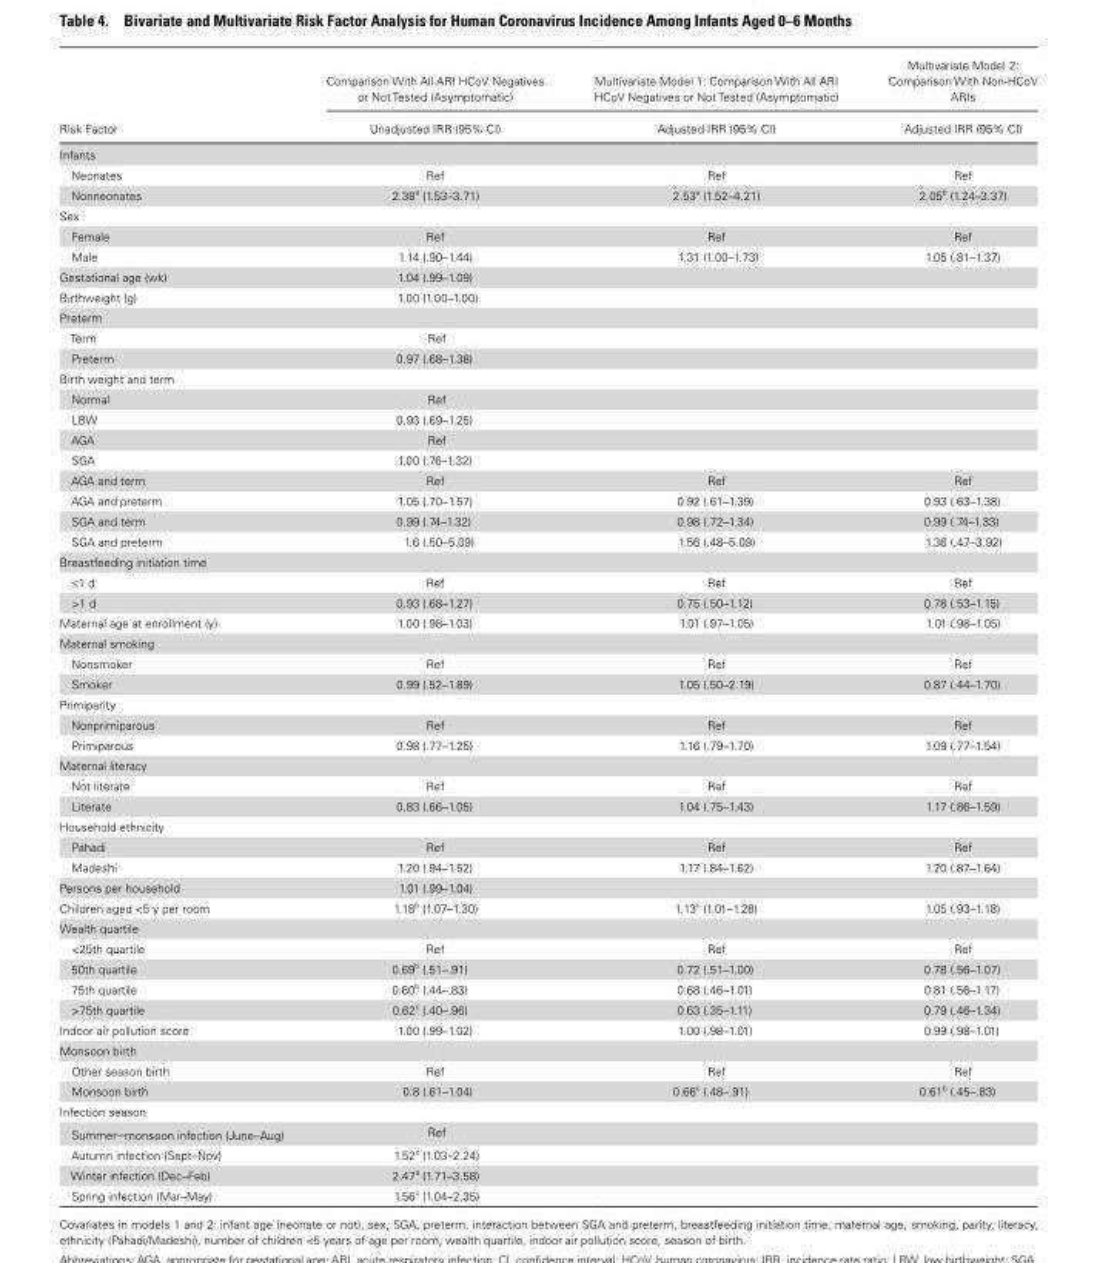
<table><thead><tr><td rowspan="2">Risk Factor</td><td rowspan="2">Comparison With All ARI HCoV Negatives or Not Tested (Asymptomatic) Unadjusted IRR (95% CI)</td><td rowspan="2">Multivariate Model 1: Comparison With All ARI HCoV Negatives or Not Tested (Asymptomatic) Adjusted IRR (95% CI)</td><td rowspan="2">Multivariate Model 2: Comparison With Non-HCoV ARIs Adjusted IRR (95% CI)</td></tr><tr></tr></thead><tbody><tr><td colspan="4">Infants</td></tr><tr><td>Neonates</td><td>Ref</td><td>Ref</td><td>Ref</td></tr><tr><td>Nonneonates</td><td>2.38<sup>a</sup> (1.53–3.71)</td><td>2.53<sup>a</sup> (1.52–4.21)</td><td>2.05<sup>b</sup> (1.24–3.37)</td></tr><tr><td colspan="4">Sex</td></tr><tr><td>Female</td><td>Ref</td><td>Ref</td><td>Ref</td></tr><tr><td>Male</td><td>1.14 (.90–1.44)</td><td>1.31 (1.00–1.73)</td><td>1.05 (.81–1.37)</td></tr><tr><td>Gestational age (wk)</td><td>1.04 (.99–1.09)</td><td></td><td></td></tr><tr><td>Birthweight (g)</td><td>1.00 (1.00–1.00)</td><td></td><td></td></tr><tr><td colspan="4">Preterm</td></tr><tr><td>Term</td><td>Ref</td><td></td><td></td></tr><tr><td>Preterm</td><td>0.97 (.68–1.38)</td><td></td><td></td></tr><tr><td colspan="4">Birth weight and term</td></tr><tr><td>Normal</td><td>Ref</td><td></td><td></td></tr><tr><td>LBW</td><td>0.93 (.69–1.25)</td><td></td><td></td></tr><tr><td>AGA</td><td>Ref</td><td></td><td></td></tr><tr><td>SGA</td><td>1.00 (.76–1.32)</td><td></td><td></td></tr><tr><td>AGA and term</td><td>Ref</td><td>Ref</td><td>Ref</td></tr><tr><td>AGA and preterm</td><td>1.05 (.70–1.57)</td><td>0.92 (.61–1.39)</td><td>0.93 (.63–1.38)</td></tr><tr><td>SGA and term</td><td>0.99 (.74–1.32)</td><td>0.98 (.72–1.34)</td><td>0.99 (.74–1.33)</td></tr><tr><td>SGA and preterm</td><td>1.6 (.50–5.09)</td><td>1.56 (.48–5.09)</td><td>1.36 (.47–3.92)</td></tr><tr><td colspan="4">Breastfeeding initiation time</td></tr><tr><td>≤1 d</td><td>Ref</td><td>Ref</td><td>Ref</td></tr><tr><td>&gt;1 d</td><td>0.93 (.68–1.27)</td><td>0.75 (.50–1.12)</td><td>0.78 (.53–1.15)</td></tr><tr><td>Maternal age at enrollment (y)</td><td>1.00 (.98–1.03)</td><td>1.01 (.97–1.05)</td><td>1.01 (.98–1.05)</td></tr><tr><td colspan="4">Maternal smoking</td></tr><tr><td>Nonsmoker</td><td>Ref</td><td>Ref</td><td>Ref</td></tr><tr><td>Smoker</td><td>0.99 (.52–1.89)</td><td>1.05 (.50–2.19)</td><td>0.87 (.44–1.70)</td></tr><tr><td colspan="4">Primiparity</td></tr><tr><td>Nonprimiparous</td><td>Ref</td><td>Ref</td><td>Ref</td></tr><tr><td>Primiparous</td><td>0.98 (.77–1.25)</td><td>1.16 (.79–1.70)</td><td>1.09 (.77–1.54)</td></tr><tr><td colspan="4">Maternal literacy</td></tr><tr><td>Not literate</td><td>Ref</td><td>Ref</td><td>Ref</td></tr><tr><td>Literate</td><td>0.83 (.66–1.05)</td><td>1.04 (.75–1.43)</td><td>1.17 (.86–1.59)</td></tr><tr><td colspan="4">Household ethnicity</td></tr><tr><td>Pahadi</td><td>Ref</td><td>Ref</td><td>Ref</td></tr><tr><td>Madeshi</td><td>1.20 (.94–1.52)</td><td>1.17 (.84–1.62)</td><td>1.20 (.87–1.64)</td></tr><tr><td>Persons per household</td><td>1.01 (.99–1.04)</td><td></td><td></td></tr><tr><td>Children aged &lt;5 y per room</td><td>1.18<sup>b</sup> (1.07–1.30)</td><td>1.13<sup>c</sup> (1.01–1.28)</td><td>1.05 (.93–1.18)</td></tr><tr><td colspan="4">Wealth quartile</td></tr><tr><td>&lt;25th quartile</td><td>Ref</td><td>Ref</td><td>Ref</td></tr><tr><td>50th quartile</td><td>0.69<sup>b</sup> (.51–.91)</td><td>0.72 (.51–1.00)</td><td>0.78 (.56–1.07)</td></tr><tr><td>75th quartile</td><td>0.60<sup>b</sup> (.44–.83)</td><td>0.68 (.46–1.01)</td><td>0.81 (.56–1.17)</td></tr><tr><td>&gt;75th quartile</td><td>0.62<sup>c</sup> (.40–.96)</td><td>0.63 (.35–1.11)</td><td>0.79 (.46–1.34)</td></tr><tr><td>Indoor air pollution score</td><td>1.00 (.99–1.02)</td><td>1.00 (.98–1.01)</td><td>0.99 (.98–1.01)</td></tr><tr><td colspan="4">Monsoon birth</td></tr><tr><td>Other season birth</td><td>Ref</td><td>Ref</td><td>Ref</td></tr><tr><td>Monsoon birth</td><td>0.8 (.61–1.04)</td><td>0.66<sup>c</sup> (.48–.91)</td><td>0.61<sup>b</sup> (.45–.83)</td></tr><tr><td colspan="4">Infection season</td></tr><tr><td>Summer–monsoon infection (June–Aug)</td><td>Ref</td><td></td><td></td></tr><tr><td>Autumn infection (Sept–Nov)</td><td>1.52<sup>c</sup> (1.03–2.24)</td><td></td><td></td></tr><tr><td>Winter infection (Dec–Feb)</td><td>2.47<sup>a</sup> (1.71–3.58)</td><td></td><td></td></tr><tr><td>Spring infection (Mar–May)</td><td>1.56<sup>c</sup> (1.04–2.35)</td><td></td><td></td></tr></tbody></table>